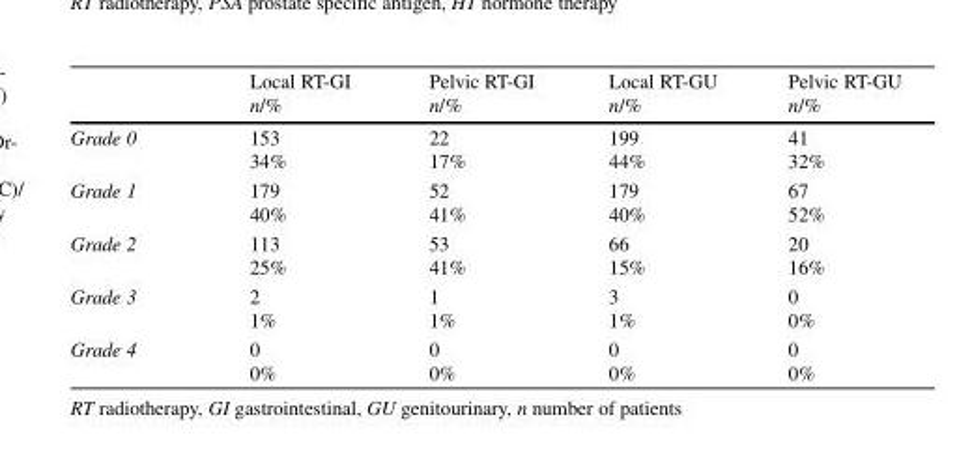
<table><thead><tr><td></td><td>Local RT-GI n/%</td><td>Pelvic RT-GI n/%</td><td>Local RT-GU n/%</td><td>Pelvic RT-GU n/%</td></tr></thead><tbody><tr><td>Grade 0</td><td>153 34%</td><td>22 17%</td><td>199 44%</td><td>41 32%</td></tr><tr><td>Grade 1</td><td>179 40%</td><td>52 41%</td><td>179 40%</td><td>67 52%</td></tr><tr><td>Grade 2</td><td>113 25%</td><td>53 41%</td><td>66 15%</td><td>20 16%</td></tr><tr><td>Grade 3</td><td>2 1%</td><td>1 1%</td><td>3 1%</td><td>0 0%</td></tr><tr><td>Grade 4</td><td>0 0%</td><td>0 0%</td><td>0 0%</td><td>0 0%</td></tr></tbody></table>